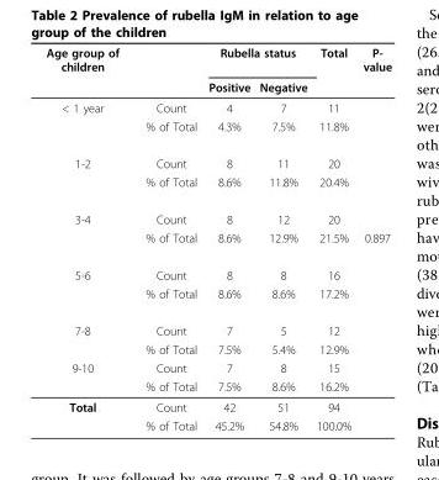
<table><thead><tr><td rowspan="2">Age group of children</td><td rowspan="2"></td><td colspan="2">Rubella status</td><td rowspan="2">Total</td><td rowspan="2">P- value</td></tr><tr><td>Positive</td><td>Negative</td></tr></thead><tbody><tr><td rowspan="2">&lt; 1 year</td><td>Count</td><td>4</td><td>7</td><td>11</td><td></td></tr><tr><td>% of Total</td><td>4.3%</td><td>7.5%</td><td>11.8%</td><td></td></tr><tr><td rowspan="2">1-2</td><td>Count</td><td>8</td><td>11</td><td>20</td><td></td></tr><tr><td>% of Total</td><td>8.6%</td><td>11.8%</td><td>20.4%</td><td></td></tr><tr><td rowspan="2">3-4</td><td>Count</td><td>8</td><td>12</td><td>20</td><td></td></tr><tr><td>% of Total</td><td>8.6%</td><td>12.9%</td><td>21.5%</td><td>0.897</td></tr><tr><td rowspan="2">5-6</td><td>Count</td><td>8</td><td>8</td><td>16</td><td></td></tr><tr><td>% of Total</td><td>8.6%</td><td>8.6%</td><td>17.2%</td><td></td></tr><tr><td rowspan="2">7-8</td><td>Count</td><td>7</td><td>5</td><td>12</td><td></td></tr><tr><td>% of Total</td><td>7.5%</td><td>5.4%</td><td>12.9%</td><td></td></tr><tr><td rowspan="2">9-10</td><td>Count</td><td>7</td><td>8</td><td>15</td><td></td></tr><tr><td>% of Total</td><td>7.5%</td><td>8.6%</td><td>16.2%</td><td></td></tr><tr><td rowspan="2">Total</td><td>Count</td><td>42</td><td>51</td><td>94</td><td></td></tr><tr><td>% of Total</td><td>45.2%</td><td>54.8%</td><td>100.0%</td><td></td></tr></tbody></table>